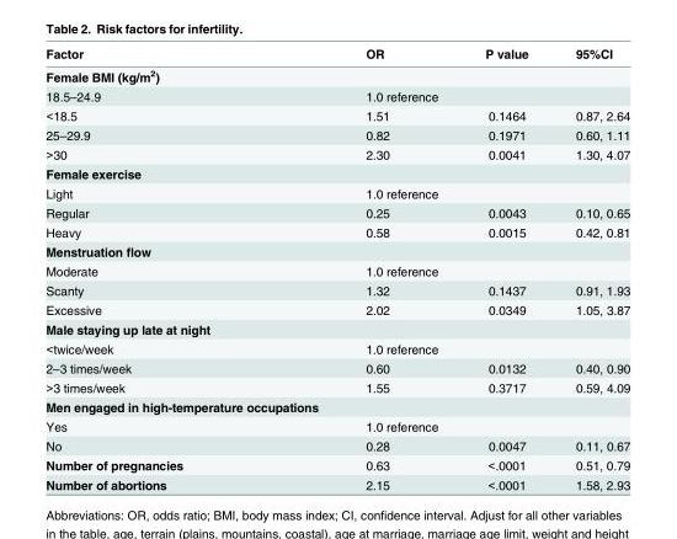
<table><thead><tr><td>Factor</td><td>OR</td><td>P value</td><td>95%CI</td></tr></thead><tbody><tr><td colspan="4">Female BMI (kg/m<sup>2</sup>)</td></tr><tr><td>18.5–24.9</td><td>1.0 reference</td><td></td><td></td></tr><tr><td>&lt;18.5</td><td>1.51</td><td>0.1464</td><td>0.87, 2.64</td></tr><tr><td>25–29.9</td><td>0.82</td><td>0.1971</td><td>0.60, 1.11</td></tr><tr><td>&gt;30</td><td>2.30</td><td>0.0041</td><td>1.30, 4.07</td></tr><tr><td colspan="4">Female exercise</td></tr><tr><td>Light</td><td>1.0 reference</td><td></td><td></td></tr><tr><td>Regular</td><td>0.25</td><td>0.0043</td><td>0.10, 0.65</td></tr><tr><td>Heavy</td><td>0.58</td><td>0.0015</td><td>0.42, 0.81</td></tr><tr><td colspan="4">Menstruation flow</td></tr><tr><td>Moderate</td><td>1.0 reference</td><td></td><td></td></tr><tr><td>Scanty</td><td>1.32</td><td>0.1437</td><td>0.91, 1.93</td></tr><tr><td>Excessive</td><td>2.02</td><td>0.0349</td><td>1.05, 3.87</td></tr><tr><td colspan="4">Male staying up late at night</td></tr><tr><td>&lt;twice/week</td><td>1.0 reference</td><td></td><td></td></tr><tr><td>2–3 times/week</td><td>0.60</td><td>0.0132</td><td>0.40, 0.90</td></tr><tr><td>&gt;3 times/week</td><td>1.55</td><td>0.3717</td><td>0.59, 4.09</td></tr><tr><td colspan="4">Men engaged in high-temperature occupations</td></tr><tr><td>Yes</td><td>1.0 reference</td><td></td><td></td></tr><tr><td>No</td><td>0.28</td><td>0.0047</td><td>0.11, 0.67</td></tr><tr><td>Number of pregnancies</td><td>0.63</td><td>&lt;.0001</td><td>0.51, 0.79</td></tr><tr><td>Number of abortions</td><td>2.15</td><td>&lt;.0001</td><td>1.58, 2.93</td></tr></tbody></table>